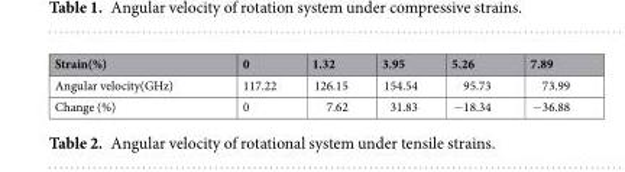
<table><thead><tr><td>Strain(%)</td><td>0</td><td>1.32</td><td>3.95</td><td>5.26</td><td>7.89</td></tr></thead><tbody><tr><td>Angular velocity(GHz)</td><td>117.22</td><td>126.15</td><td>154.54</td><td>95.73</td><td>73.99</td></tr><tr><td>Change (%)</td><td>0</td><td>7.62</td><td>31.83</td><td>−18.34</td><td>−36.88</td></tr></tbody></table>